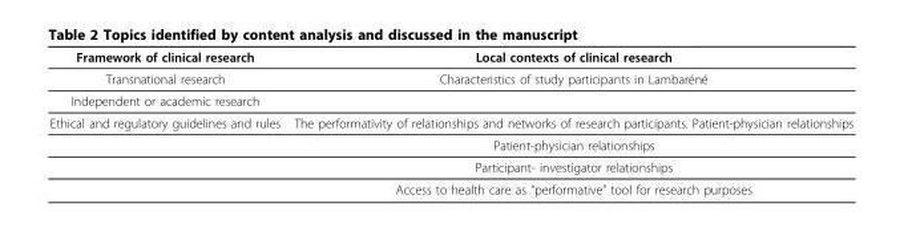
<table><thead><tr><td>Framework of clinical research</td><td>Local contexts of clinical research</td></tr></thead><tbody><tr><td>Transnational research</td><td>Characteristics of study participants in Lambaréné</td></tr><tr><td colspan="2">Independent or academic research</td></tr><tr><td rowspan="4">Ethical and regulatory guidelines and rules</td><td>The performativity of relationships and networks of research participants. Patient-physician relationships</td></tr><tr><td>Patient-physician relationships</td></tr><tr><td>Participant- investigator relationships</td></tr><tr><td>Access to health care as “performative” tool for research purposes</td></tr></tbody></table>